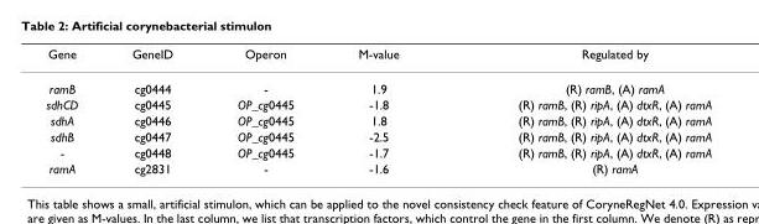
<table><thead><tr><td>Gene</td><td>GeneID</td><td>Operon</td><td>M-value</td><td>Regulated by</td></tr></thead><tbody><tr><td>ramB</td><td>cg0444</td><td>-</td><td>1.9</td><td>(R) ramB, (A) ramA</td></tr><tr><td>sdhCD</td><td>cg0445</td><td>OP_cg0445</td><td>-1.8</td><td>(R) ramB, (R) ripA, (A) dtxR, (A) ramA</td></tr><tr><td>sdhA</td><td>cg0446</td><td>OP_cg0445</td><td>1.8</td><td>(R) ramB, (R) ripA, (A) dtxR, (A) ramA</td></tr><tr><td>sdhB</td><td>cg0447</td><td>OP_cg0445</td><td>-2.5</td><td>(R) ramB, (R) ripA, (A) dtxR, (A) ramA</td></tr><tr><td>-</td><td>cg0448</td><td>OP_cg0445</td><td>-1.7</td><td>(R) ramB, (R) ripA, (A) dtxR, (A) ramA</td></tr><tr><td>ramA</td><td>cg2831</td><td>-</td><td>-1.6</td><td>(R) ramA</td></tr></tbody></table>